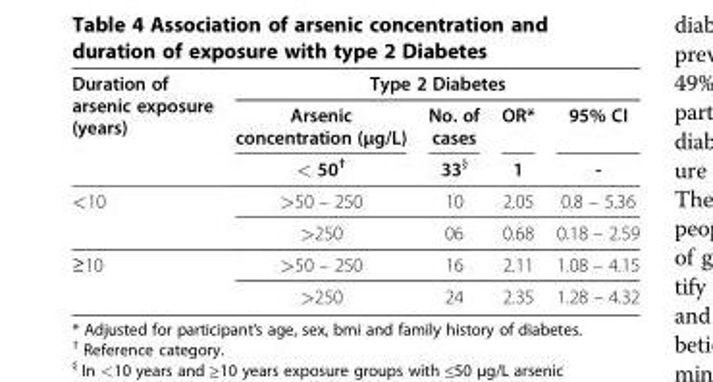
<table><thead><tr><td rowspan="3">Duration of arsenic exposure (years)</td><td colspan="4">Type 2 Diabetes</td></tr><tr><td rowspan="2">Arsenic concentration (μg/L) &lt; 50<sup>†</sup></td><td rowspan="2">No. of cases 33<sup>§</sup></td><td rowspan="2">OR* 1</td><td rowspan="2">95% CI -</td></tr><tr></tr></thead><tbody><tr><td rowspan="2">&lt;10</td><td>&gt;50 – 250</td><td>10</td><td>2.05</td><td>0.8 – 5.36</td></tr><tr><td>&gt;250</td><td>06</td><td>0.68</td><td>0.18 – 2.59</td></tr><tr><td rowspan="2">≥10</td><td>&gt;50 – 250</td><td>16</td><td>2.11</td><td>1.08 – 4.15</td></tr><tr><td>&gt;250</td><td>24</td><td>2.35</td><td>1.28 – 4.32</td></tr></tbody></table>